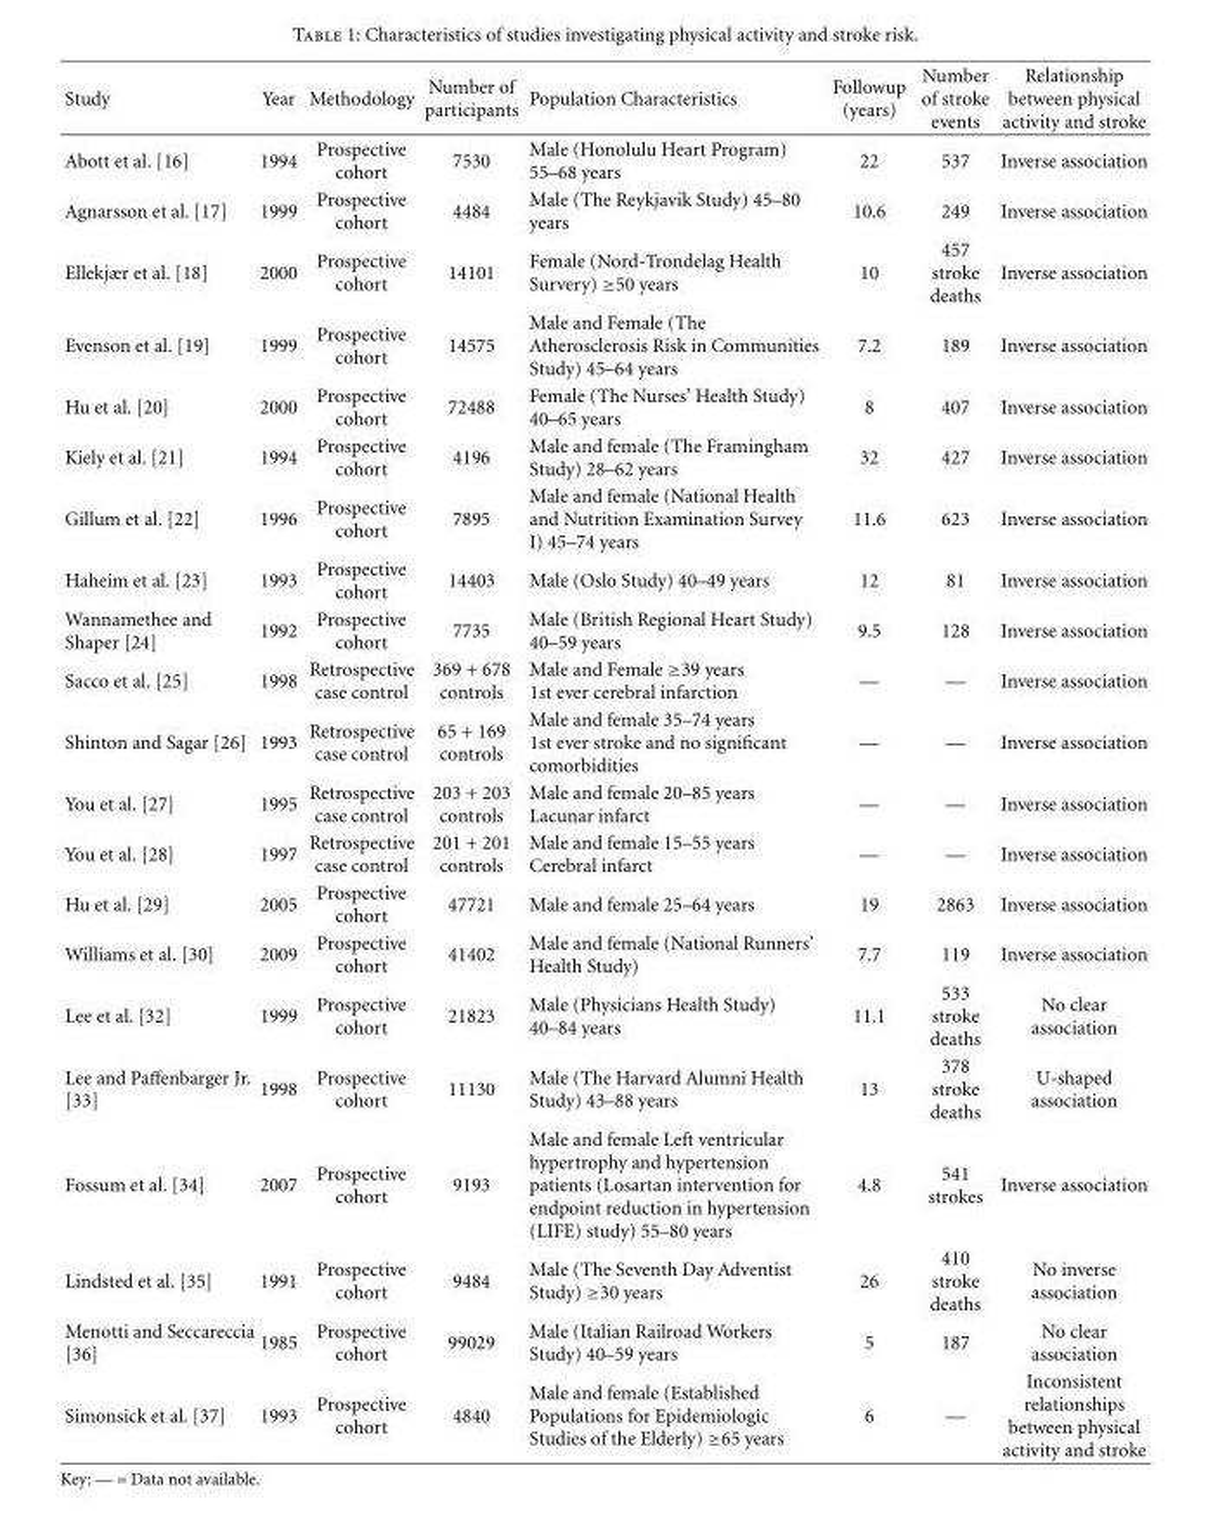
<table><thead><tr><td>Study</td><td>Year</td><td>Methodology</td><td>Number of participants</td><td>Population Characteristics</td><td>Followup (years)</td><td>Number of stroke events</td><td>Relationship between physical activity and stroke</td></tr></thead><tbody><tr><td>Abott et al. [16]</td><td>1994</td><td>Prospective cohort</td><td>7530</td><td>Male (Honolulu Heart Program) 55–68 years</td><td>22</td><td>537</td><td>Inverse association</td></tr><tr><td>Agnarsson et al. [17]</td><td>1999</td><td>Prospective cohort</td><td>4484</td><td>Male (The Reykjavik Study) 45–80 years</td><td>10.6</td><td>249</td><td>Inverse association</td></tr><tr><td>Ellekjær et al. [18]</td><td>2000</td><td>Prospective cohort</td><td>14101</td><td>Female (Nord-Trondelag Health Survery) ≥50 years</td><td>10</td><td>457 stroke deaths</td><td>Inverse association</td></tr><tr><td>Evenson et al. [19]</td><td>1999</td><td>Prospective cohort</td><td>14575</td><td>Male and Female (The Atherosclerosis Risk in Communities Study) 45–64 years</td><td>7.2</td><td>189</td><td>Inverse association</td></tr><tr><td>Hu et al. [20]</td><td>2000</td><td>Prospective cohort</td><td>72488</td><td>Female (The Nurses’ Health Study) 40–65 years</td><td>8</td><td>407</td><td>Inverse association</td></tr><tr><td>Kiely et al. [21]</td><td>1994</td><td>Prospective cohort</td><td>4196</td><td>Male and female (The Framingham Study) 28–62 years</td><td>32</td><td>427</td><td>Inverse association</td></tr><tr><td>Gillum et al. [22]</td><td>1996</td><td>Prospective cohort</td><td>7895</td><td>Male and female (National Health and Nutrition Examination Survey I) 45–74 years</td><td>11.6</td><td>623</td><td>Inverse association</td></tr><tr><td>Haheim et al. [23]</td><td>1993</td><td>Prospective cohort</td><td>14403</td><td>Male (Oslo Study) 40–49 years</td><td>12</td><td>81</td><td>Inverse association</td></tr><tr><td>Wannamethee and Shaper [24]</td><td>1992</td><td>Prospective cohort</td><td>7735</td><td>Male (British Regional Heart Study) 40–59 years</td><td>9.5</td><td>128</td><td>Inverse association</td></tr><tr><td>Sacco et al. [25]</td><td>1998</td><td>Retrospective case control</td><td>369 + 678 controls</td><td>Male and Female ≥39 years 1st ever cerebral infarction</td><td>—</td><td>—</td><td>Inverse association</td></tr><tr><td>Shinton and Sagar [26]</td><td>1993</td><td>Retrospective case control</td><td>65 + 169 controls</td><td>Male and female 35–74 years 1st ever stroke and no significant comorbidities</td><td>—</td><td>—</td><td>Inverse association</td></tr><tr><td>You et al. [27]</td><td>1995</td><td>Retrospective case control</td><td>203 + 203 controls</td><td>Male and female 20–85 years Lacunar infarct</td><td>—</td><td>—</td><td>Inverse association</td></tr><tr><td>You et al. [28]</td><td>1997</td><td>Retrospective case control</td><td>201 + 201 controls</td><td>Male and female 15–55 years Cerebral infarct</td><td>—</td><td>—</td><td>Inverse association</td></tr><tr><td>Hu et al. [29]</td><td>2005</td><td>Prospective cohort</td><td>47721</td><td>Male and female 25–64 years</td><td>19</td><td>2863</td><td>Inverse association</td></tr><tr><td>Williams et al. [30]</td><td>2009</td><td>Prospective cohort</td><td>41402</td><td>Male and female (National Runners’ Health Study)</td><td>7.7</td><td>119</td><td>Inverse association</td></tr><tr><td>Lee et al. [32]</td><td>1999</td><td>Prospective cohort</td><td>21823</td><td>Male (Physicians Health Study) 40–84 years</td><td>11.1</td><td>533 stroke deaths</td><td>No clear association</td></tr><tr><td>Lee and Paffenbarger Jr. [33]</td><td>1998</td><td>Prospective cohort</td><td>11130</td><td>Male (The Harvard Alumni Health Study) 43–88 years</td><td>13</td><td>378 stroke deaths</td><td>U-shaped association</td></tr><tr><td>Fossum et al. [34]</td><td>2007</td><td>Prospective cohort</td><td>9193</td><td>Male and female Left ventricular hypertrophy and hypertension patients (Losartan intervention for endpoint reduction in hypertension (LIFE) study) 55–80 years</td><td>4.8</td><td>541 strokes</td><td>Inverse association</td></tr><tr><td>Lindsted et al. [35]</td><td>1991</td><td>Prospective cohort</td><td>9484</td><td>Male (The Seventh Day Adventist Study) ≥30 years</td><td>26</td><td>410 stroke deaths</td><td>No inverse association</td></tr><tr><td>Menotti and Seccareccia [36]</td><td>1985</td><td>Prospective cohort</td><td>99029</td><td>Male (Italian Railroad Workers Study) 40–59 years</td><td>5</td><td>187</td><td>No clear association</td></tr><tr><td>Simonsick et al. [37]</td><td>1993</td><td>Prospective cohort</td><td>4840</td><td>Male and female (Established Populations for Epidemiologic Studies of the Elderly) ≥65 years</td><td>6</td><td>—</td><td>Inconsistent relationships between physical activity and stroke</td></tr></tbody></table>